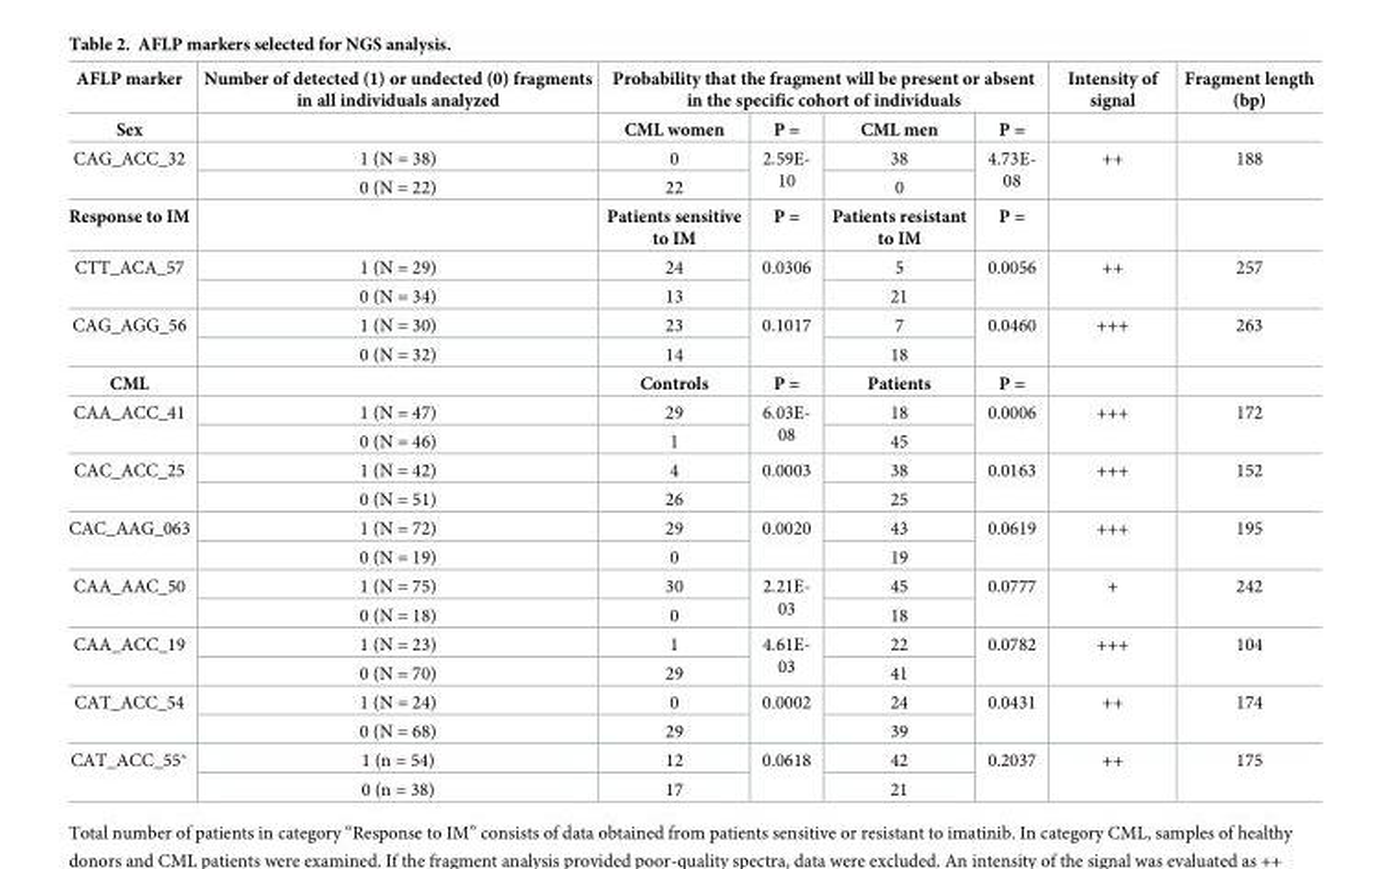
<table><thead><tr><td rowspan="2">AFLP marker Sex</td><td rowspan="2">Number of detected (1) or undected (0) fragments in all individuals analyzed</td><td colspan="4">Probability that the fragment will be present or absent in the specific cohort of individuals</td><td rowspan="2">Intensity of signal</td><td rowspan="2">Fragment length (bp)</td></tr><tr><td>CML women</td><td>P =</td><td>CML men</td><td>P =</td></tr></thead><tbody><tr><td rowspan="2">CAG_ACC_32</td><td>1 (N = 38)</td><td>0</td><td rowspan="2">2.59E- 10</td><td>38</td><td rowspan="2">4.73E- 08</td><td rowspan="2">++</td><td rowspan="2">188</td></tr><tr><td>0 (N = 22)</td><td>22</td><td>0</td></tr><tr><td>Response to IM</td><td></td><td>Patients sensitive to IM</td><td>P =</td><td>Patients resistant to IM</td><td>P =</td><td></td><td></td></tr><tr><td rowspan="2">CTT_ACA_57</td><td>1 (N = 29)</td><td>24</td><td rowspan="2">0.0306</td><td>5</td><td rowspan="2">0.0056</td><td rowspan="2">++</td><td rowspan="2">257</td></tr><tr><td>0 (N = 34)</td><td>13</td><td>21</td></tr><tr><td rowspan="2">CAG_AGG_56</td><td>1 (N = 30)</td><td>23</td><td rowspan="2">0.1017</td><td>7</td><td rowspan="2">0.0460</td><td rowspan="2">+++</td><td rowspan="2">263</td></tr><tr><td>0 (N = 32)</td><td>14</td><td>18</td></tr><tr><td>CML</td><td></td><td>Controls</td><td>P =</td><td>Patients</td><td>P =</td><td></td><td></td></tr><tr><td rowspan="2">CAA_ACC_41</td><td>1 (N = 47)</td><td>29</td><td rowspan="2">6.03E- 08</td><td>18</td><td rowspan="2">0.0006</td><td rowspan="2">+++</td><td rowspan="2">172</td></tr><tr><td>0 (N = 46)</td><td>1</td><td>45</td></tr><tr><td rowspan="2">CAC_ACC_25</td><td>1 (N = 42)</td><td>4</td><td rowspan="2">0.0003</td><td>38</td><td rowspan="2">0.0163</td><td rowspan="2">+++</td><td rowspan="2">152</td></tr><tr><td>0 (N = 51)</td><td>26</td><td>25</td></tr><tr><td rowspan="2">CAC_AAG_063</td><td>1 (N = 72)</td><td>29</td><td rowspan="2">0.0020</td><td>43</td><td rowspan="2">0.0619</td><td rowspan="2">+++</td><td rowspan="2">195</td></tr><tr><td>0 (N = 19)</td><td>0</td><td>19</td></tr><tr><td rowspan="2">CAA_AAC_50</td><td>1 (N = 75)</td><td>30</td><td rowspan="2">2.21E- 03</td><td>45</td><td rowspan="2">0.0777</td><td rowspan="2">+</td><td rowspan="2">242</td></tr><tr><td>0 (N = 18)</td><td>0</td><td>18</td></tr><tr><td rowspan="2">CAA_ACC_19</td><td>1 (N = 23)</td><td>1</td><td rowspan="2">4.61E- 03</td><td>22</td><td rowspan="2">0.0782</td><td rowspan="2">+++</td><td rowspan="2">104</td></tr><tr><td>0 (N = 70)</td><td>29</td><td>41</td></tr><tr><td rowspan="2">CAT_ACC_54</td><td>1 (N = 24)</td><td>0</td><td rowspan="2">0.0002</td><td>24</td><td rowspan="2">0.0431</td><td rowspan="2">++</td><td rowspan="2">174</td></tr><tr><td>0 (N = 68)</td><td>29</td><td>39</td></tr><tr><td rowspan="2">CAT_ACC_55*</td><td>1 (n = 54)</td><td>12</td><td rowspan="2">0.0618</td><td>42</td><td rowspan="2">0.2037</td><td rowspan="2">++</td><td rowspan="2">175</td></tr><tr><td>0 (n = 38)</td><td>17</td><td>21</td></tr></tbody></table>